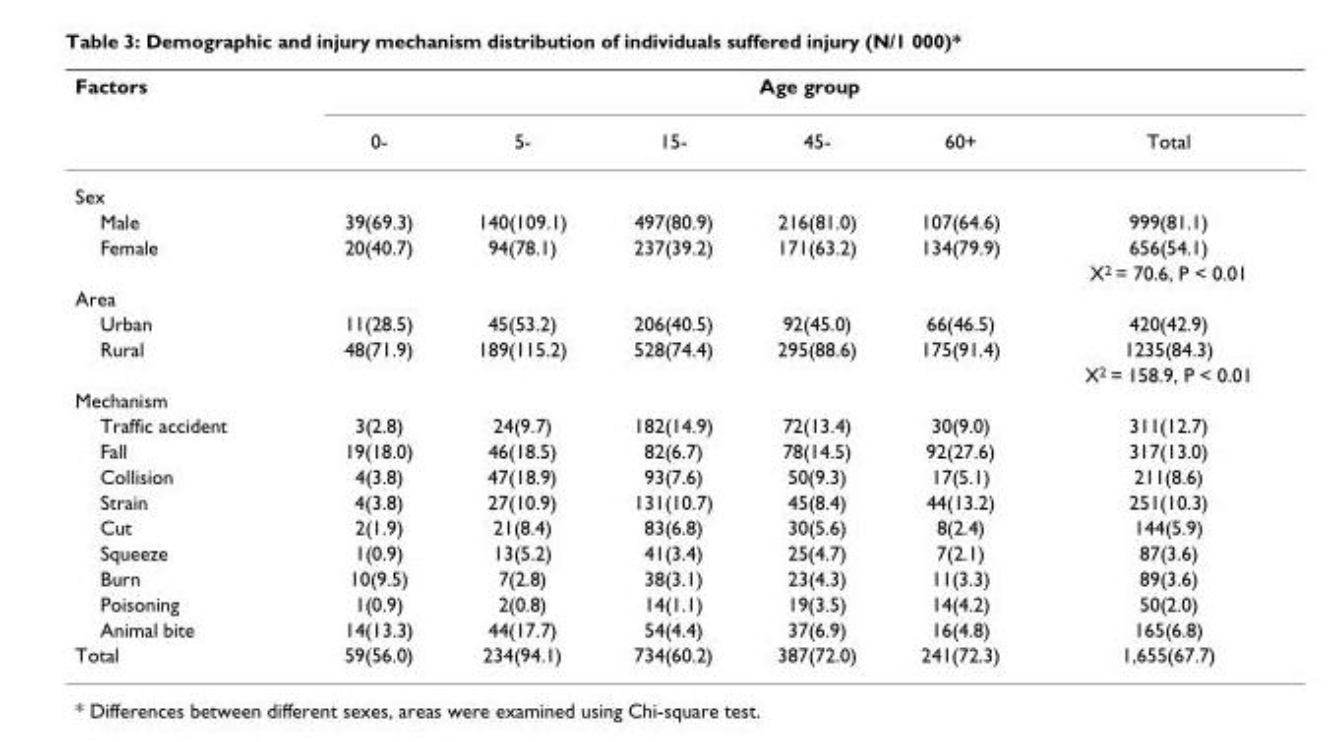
<table><thead><tr><td rowspan="2">Factors</td><td colspan="6">Age group</td></tr><tr><td>0-</td><td>5-</td><td>15-</td><td>45-</td><td>60+</td><td>Total</td></tr></thead><tbody><tr><td colspan="7">Sex</td></tr><tr><td>Male</td><td>39(69.3)</td><td>140(109.1)</td><td>497(80.9)</td><td>216(81.0)</td><td>107(64.6)</td><td>999(81.1)</td></tr><tr><td rowspan="2">Female</td><td>20(40.7)</td><td>94(78.1)</td><td>237(39.2)</td><td>171(63.2)</td><td>134(79.9)</td><td>656(54.1)</td></tr><tr><td></td><td></td><td></td><td></td><td></td><td>X<sup>2</sup> = 70.6, P &lt; 0.01</td></tr><tr><td colspan="7">Area</td></tr><tr><td>Urban</td><td>11(28.5)</td><td>45(53.2)</td><td>206(40.5)</td><td>92(45.0)</td><td>66(46.5)</td><td>420(42.9)</td></tr><tr><td rowspan="2">Rural</td><td>48(71.9)</td><td>189(115.2)</td><td>528(74.4)</td><td>295(88.6)</td><td>175(91.4)</td><td>1235(84.3)</td></tr><tr><td></td><td></td><td></td><td></td><td></td><td>X<sup>2</sup> = 158.9, P &lt; 0.01</td></tr><tr><td colspan="7">Mechanism</td></tr><tr><td>Traffic accident</td><td>3(2.8)</td><td>24(9.7)</td><td>182(14.9)</td><td>72(13.4)</td><td>30(9.0)</td><td>311(12.7)</td></tr><tr><td>Fall</td><td>19(18.0)</td><td>46(18.5)</td><td>82(6.7)</td><td>78(14.5)</td><td>92(27.6)</td><td>317(13.0)</td></tr><tr><td>Collision</td><td>4(3.8)</td><td>47(18.9)</td><td>93(7.6)</td><td>50(9.3)</td><td>17(5.1)</td><td>211(8.6)</td></tr><tr><td>Strain</td><td>4(3.8)</td><td>27(10.9)</td><td>131(10.7)</td><td>45(8.4)</td><td>44(13.2)</td><td>251(10.3)</td></tr><tr><td>Cut</td><td>2(1.9)</td><td>21(8.4)</td><td>83(6.8)</td><td>30(5.6)</td><td>8(2.4)</td><td>144(5.9)</td></tr><tr><td>Squeeze</td><td>1(0.9)</td><td>13(5.2)</td><td>41(3.4)</td><td>25(4.7)</td><td>7(2.1)</td><td>87(3.6)</td></tr><tr><td>Burn</td><td>10(9.5)</td><td>7(2.8)</td><td>38(3.1)</td><td>23(4.3)</td><td>11(3.3)</td><td>89(3.6)</td></tr><tr><td>Poisoning</td><td>1(0.9)</td><td>2(0.8)</td><td>14(1.1)</td><td>19(3.5)</td><td>14(4.2)</td><td>50(2.0)</td></tr><tr><td>Animal bite</td><td>14(13.3)</td><td>44(17.7)</td><td>54(4.4)</td><td>37(6.9)</td><td>16(4.8)</td><td>165(6.8)</td></tr><tr><td>Total</td><td>59(56.0)</td><td>234(94.1)</td><td>734(60.2)</td><td>387(72.0)</td><td>241(72.3)</td><td>1,655(67.7)</td></tr></tbody></table>